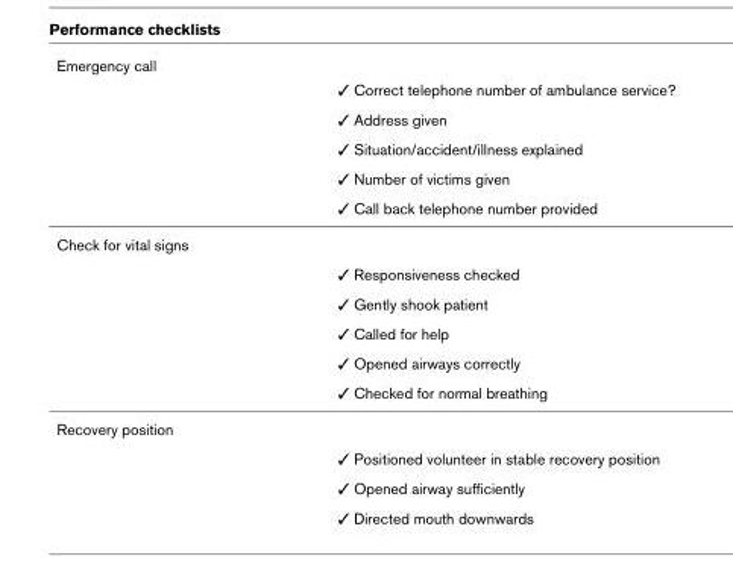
<table><thead><tr><td rowspan="6">Emergency call</td><td rowspan="6">✓ Correct telephone number of ambulance service? ✓ Address given ✓ Situation/accident/illness explained ✓ Number of victims given ✓ Call back telephone number provided</td></tr><tr></tr><tr></tr><tr></tr><tr></tr><tr></tr></thead><tbody><tr><td colspan="2">Check for vital signs</td></tr><tr><td></td><td>✓ Responsiveness checked</td></tr><tr><td></td><td>✓ Gently shook patient</td></tr><tr><td></td><td>✓ Called for help</td></tr><tr><td></td><td>✓ Opened airways correctly</td></tr><tr><td></td><td>✓ Checked for normal breathing</td></tr><tr><td colspan="2">Recovery position</td></tr><tr><td></td><td>✓ Positioned volunteer in stable recovery position</td></tr><tr><td></td><td>✓ Opened airway sufficiently</td></tr><tr><td></td><td>✓ Directed mouth downwards</td></tr></tbody></table>